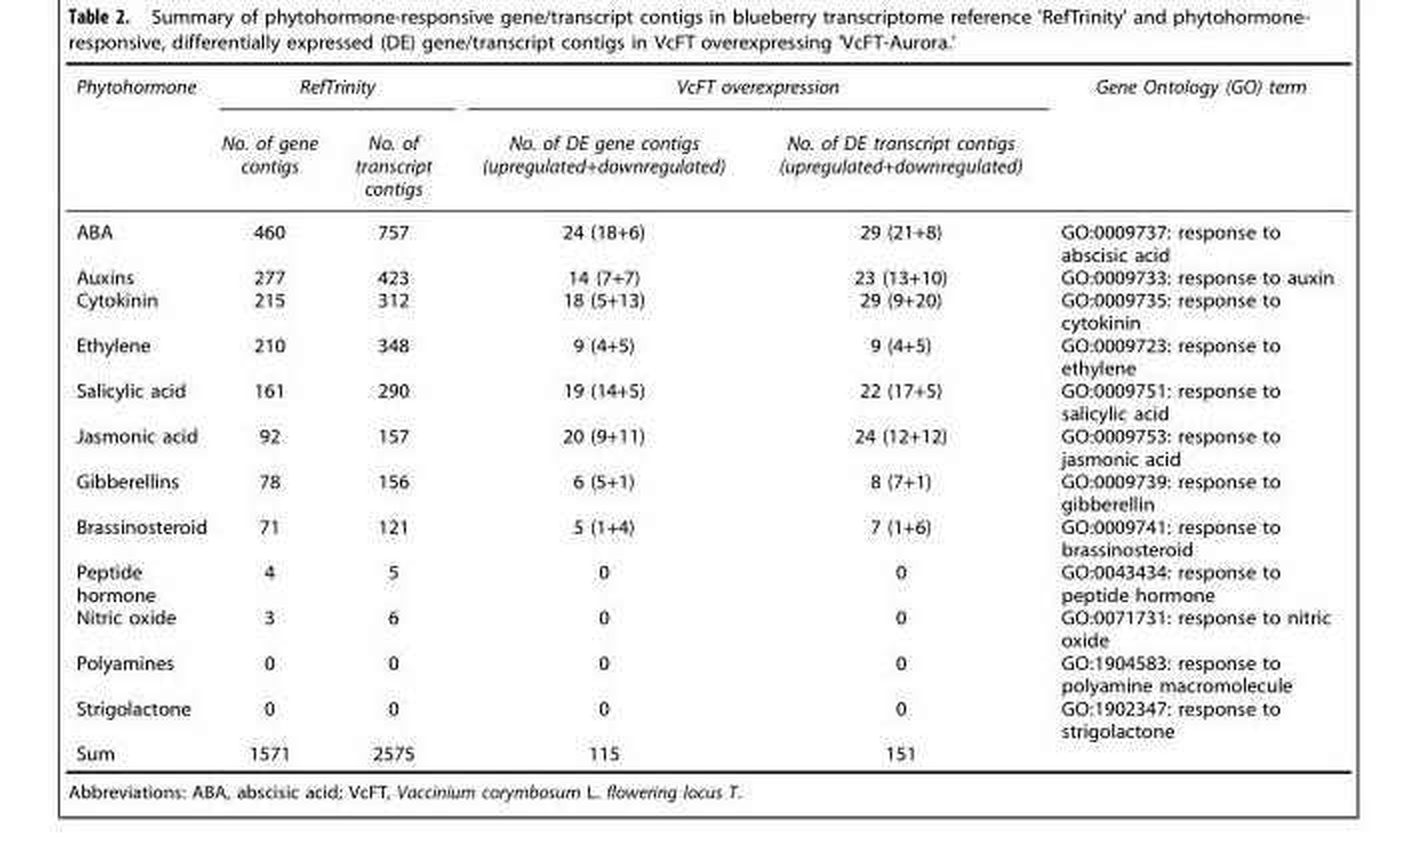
<table><thead><tr><td rowspan="2">Phytohormone</td><td colspan="2">RefTrinity</td><td colspan="2">VcFT overexpression</td><td rowspan="2">Gene Ontology (GO) term</td></tr><tr><td>No. of gene contigs</td><td>No. of transcript contigs</td><td>No. of DE gene contigs (upregulated+downregulated)</td><td>No. of DE transcript contigs (upregulated+downregulated)</td></tr></thead><tbody><tr><td>ABA</td><td>460</td><td>757</td><td>24 (18+6)</td><td>29 (21+8)</td><td>GO:0009737: response to abscisic acid</td></tr><tr><td>Auxins</td><td>277</td><td>423</td><td>14 (7+7)</td><td>23 (13+10)</td><td>GO:0009733: response to auxin</td></tr><tr><td>Cytokinin</td><td>215</td><td>312</td><td>18 (5+13)</td><td>29 (9+20)</td><td>GO:0009735: response to cytokinin</td></tr><tr><td>Ethylene</td><td>210</td><td>348</td><td>9 (4+5)</td><td>9 (4+5)</td><td>GO:0009723: response to ethylene</td></tr><tr><td>Salicylic acid</td><td>161</td><td>290</td><td>19 (14+5)</td><td>22 (17+5)</td><td>GO:0009751: response to salicylic acid</td></tr><tr><td>Jasmonic acid</td><td>92</td><td>157</td><td>20 (9+11)</td><td>24 (12+12)</td><td>GO:0009753: response to jasmonic acid</td></tr><tr><td>Gibberellins</td><td>78</td><td>156</td><td>6 (5+1)</td><td>8 (7+1)</td><td>GO:0009739: response to gibberellin</td></tr><tr><td>Brassinosteroid</td><td>71</td><td>121</td><td>5 (1+4)</td><td>7 (1+6)</td><td>GO:0009741: response to brassinosteroid</td></tr><tr><td>Peptide hormone</td><td>4</td><td>5</td><td>0</td><td>0</td><td>GO:0043434: response to peptide hormone</td></tr><tr><td>Nitric oxide</td><td>3</td><td>6</td><td>0</td><td>0</td><td>GO:0071731: response to nitric oxide</td></tr><tr><td>Polyamines</td><td>0</td><td>0</td><td>0</td><td>0</td><td>GO:1904583: response to polyamine macromolecule</td></tr><tr><td>Strigolactone</td><td>0</td><td>0</td><td>0</td><td>0</td><td>GO:1902347: response to strigolactone</td></tr><tr><td>Sum</td><td>1571</td><td>2575</td><td>115</td><td>151</td><td></td></tr></tbody></table>